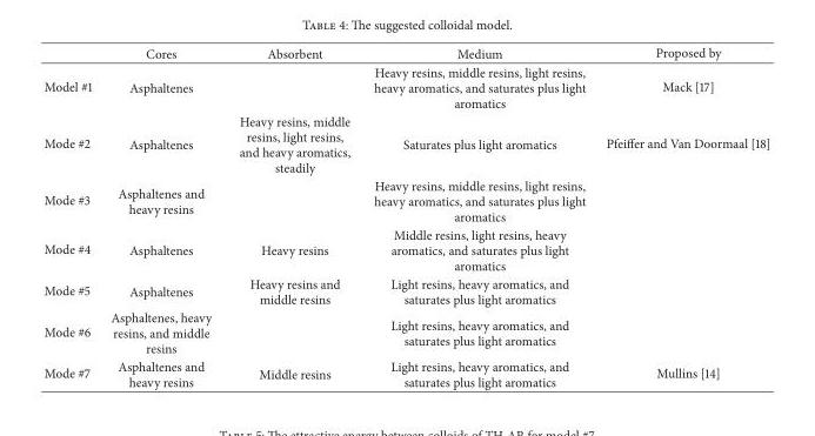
<table><thead><tr><td></td><td>Cores</td><td>Absorbent</td><td>Medium</td><td>Proposed by</td></tr></thead><tbody><tr><td>Model #1</td><td>Asphaltenes</td><td></td><td>Heavy resins, middle resins, light resins, heavy aromatics, and saturates plus light aromatics</td><td>Mack [17]</td></tr><tr><td>Mode #2</td><td>Asphaltenes</td><td>Heavy resins, middle resins, light resins, and heavy aromatics, steadily</td><td>Saturates plus light aromatics</td><td>Pfeiffer and Van Doormaal [18]</td></tr><tr><td>Mode #3</td><td>Asphaltenes and heavy resins</td><td></td><td>Heavy resins, middle resins, light resins, heavy aromatics, and saturates plus light aromatics</td><td></td></tr><tr><td>Mode #4</td><td>Asphaltenes</td><td>Heavy resins</td><td>Middle resins, light resins, heavy aromatics, and saturates plus light aromatics</td><td></td></tr><tr><td>Mode #5</td><td>Asphaltenes</td><td>Heavy resins and middle resins</td><td>Light resins, heavy aromatics, and saturates plus light aromatics</td><td></td></tr><tr><td>Mode #6</td><td>Asphaltenes, heavy resins, and middle resins</td><td></td><td>Light resins, heavy aromatics, and saturates plus light aromatics</td><td></td></tr><tr><td>Mode #7</td><td>Asphaltenes and heavy resins</td><td>Middle resins</td><td>Light resins, heavy aromatics, and saturates plus light aromatics</td><td>Mullins [14]</td></tr></tbody></table>